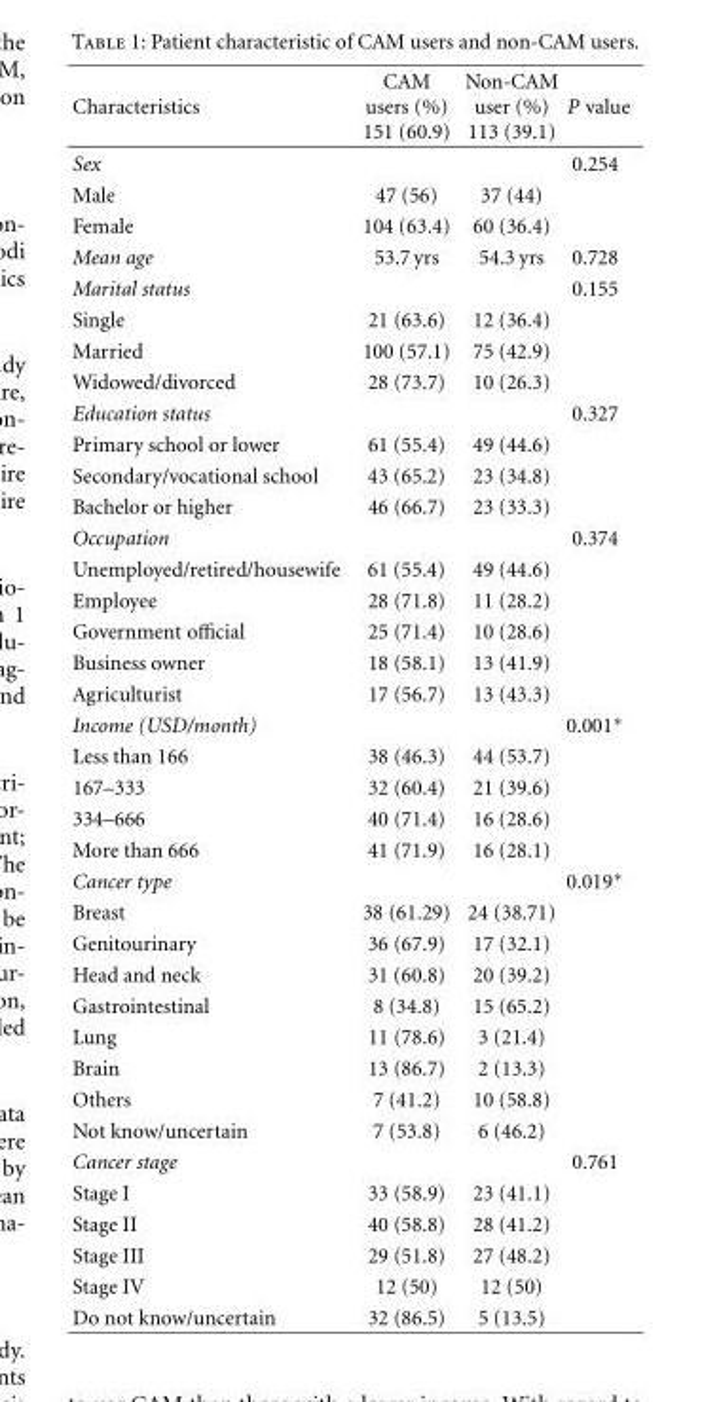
<table><thead><tr><td>Characteristics</td><td>CAM users (%) 151 (60.9)</td><td>Non-CAM user (%) 113 (39.1)</td><td>P value</td></tr></thead><tbody><tr><td>Sex</td><td></td><td></td><td>0.254</td></tr><tr><td>Male</td><td>47 (56)</td><td>37 (44)</td><td></td></tr><tr><td>Female</td><td>104 (63.4)</td><td>60 (36.4)</td><td></td></tr><tr><td>Mean age</td><td>53.7 yrs</td><td>54.3 yrs</td><td>0.728</td></tr><tr><td>Marital status</td><td></td><td></td><td>0.155</td></tr><tr><td>Single</td><td>21 (63.6)</td><td>12 (36.4)</td><td></td></tr><tr><td>Married</td><td>100 (57.1)</td><td>75 (42.9)</td><td></td></tr><tr><td>Widowed/divorced</td><td>28 (73.7)</td><td>10 (26.3)</td><td></td></tr><tr><td>Education status</td><td></td><td></td><td>0.327</td></tr><tr><td>Primary school or lower</td><td>61 (55.4)</td><td>49 (44.6)</td><td></td></tr><tr><td>Secondary/vocational school</td><td>43 (65.2)</td><td>23 (34.8)</td><td></td></tr><tr><td>Bachelor or higher</td><td>46 (66.7)</td><td>23 (33.3)</td><td></td></tr><tr><td>Occupation</td><td></td><td></td><td>0.374</td></tr><tr><td>Unemployed/retired/housewife</td><td>61 (55.4)</td><td>49 (44.6)</td><td></td></tr><tr><td>Employee</td><td>28 (71.8)</td><td>11 (28.2)</td><td></td></tr><tr><td>Government official</td><td>25 (71.4)</td><td>10 (28.6)</td><td></td></tr><tr><td>Business owner</td><td>18 (58.1)</td><td>13 (41.9)</td><td></td></tr><tr><td>Agriculturist</td><td>17 (56.7)</td><td>13 (43.3)</td><td></td></tr><tr><td>Income (USD/month)</td><td></td><td></td><td>0.001∗</td></tr><tr><td>Less than 166</td><td>38 (46.3)</td><td>44 (53.7)</td><td></td></tr><tr><td>167–333</td><td>32 (60.4)</td><td>21 (39.6)</td><td></td></tr><tr><td>334–666</td><td>40 (71.4)</td><td>16 (28.6)</td><td></td></tr><tr><td>More than 666</td><td>41 (71.9)</td><td>16 (28.1)</td><td></td></tr><tr><td>Cancer type</td><td></td><td></td><td>0.019∗</td></tr><tr><td>Breast</td><td>38 (61.29)</td><td>24 (38.71)</td><td></td></tr><tr><td>Genitourinary</td><td>36 (67.9)</td><td>17 (32.1)</td><td></td></tr><tr><td>Head and neck</td><td>31 (60.8)</td><td>20 (39.2)</td><td></td></tr><tr><td>Gastrointestinal</td><td>8 (34.8)</td><td>15 (65.2)</td><td></td></tr><tr><td>Lung</td><td>11 (78.6)</td><td>3 (21.4)</td><td></td></tr><tr><td>Brain</td><td>13 (86.7)</td><td>2 (13.3)</td><td></td></tr><tr><td>Others</td><td>7 (41.2)</td><td>10 (58.8)</td><td></td></tr><tr><td>Not know/uncertain</td><td>7 (53.8)</td><td>6 (46.2)</td><td></td></tr><tr><td>Cancer stage</td><td></td><td></td><td>0.761</td></tr><tr><td>Stage I</td><td>33 (58.9)</td><td>23 (41.1)</td><td></td></tr><tr><td>Stage II</td><td>40 (58.8)</td><td>28 (41.2)</td><td></td></tr><tr><td>Stage III</td><td>29 (51.8)</td><td>27 (48.2)</td><td></td></tr><tr><td>Stage IV</td><td>12 (50)</td><td>12 (50)</td><td></td></tr><tr><td>Do not know/uncertain</td><td>32 (86.5)</td><td>5 (13.5)</td><td></td></tr></tbody></table>